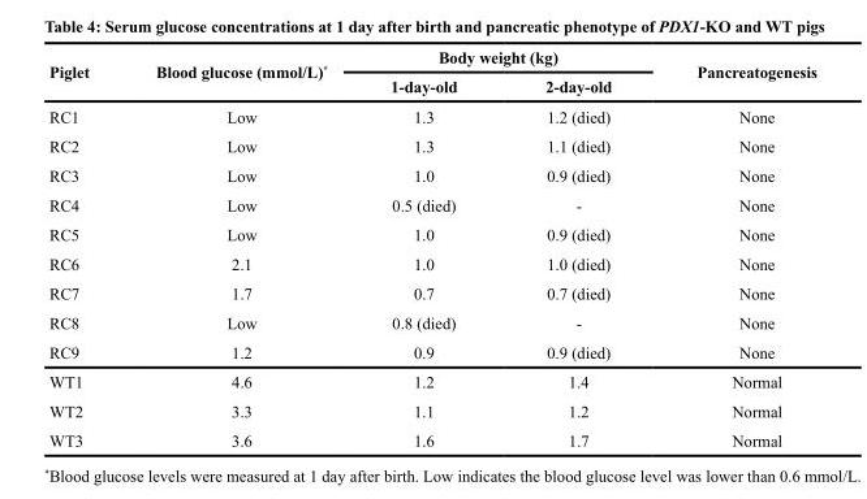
<table><thead><tr><td rowspan="2">Piglet</td><td rowspan="2">Blood glucose (mmol/L)*</td><td colspan="2">Body weight (kg)</td><td rowspan="2">Pancreatogenesis</td></tr><tr><td>1-day-old</td><td>2-day-old</td></tr></thead><tbody><tr><td>RC1</td><td>Low</td><td>1.3</td><td>1.2 (died)</td><td>None</td></tr><tr><td>RC2</td><td>Low</td><td>1.3</td><td>1.1 (died)</td><td>None</td></tr><tr><td>RC3</td><td>Low</td><td>1.0</td><td>0.9 (died)</td><td>None</td></tr><tr><td>RC4</td><td>Low</td><td>0.5 (died)</td><td>-</td><td>None</td></tr><tr><td>RC5</td><td>Low</td><td>1.0</td><td>0.9 (died)</td><td>None</td></tr><tr><td>RC6</td><td>2.1</td><td>1.0</td><td>1.0 (died)</td><td>None</td></tr><tr><td>RC7</td><td>1.7</td><td>0.7</td><td>0.7 (died)</td><td>None</td></tr><tr><td>RC8</td><td>Low</td><td>0.8 (died)</td><td>-</td><td>None</td></tr><tr><td>RC9</td><td>1.2</td><td>0.9</td><td>0.9 (died)</td><td>None</td></tr><tr><td>WT1</td><td>4.6</td><td>1.2</td><td>1.4</td><td>Normal</td></tr><tr><td>WT2</td><td>3.3</td><td>1.1</td><td>1.2</td><td>Normal</td></tr><tr><td>WT3</td><td>3.6</td><td>1.6</td><td>1.7</td><td>Normal</td></tr></tbody></table>